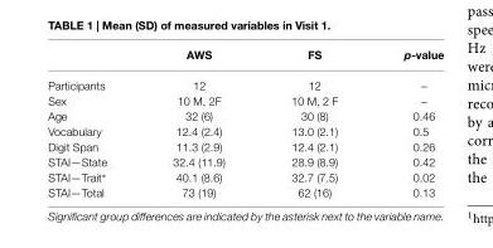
<table><thead><tr><td></td><td>AWS</td><td>FS</td><td>p-value</td></tr></thead><tbody><tr><td>Participants</td><td>12</td><td>12</td><td>–</td></tr><tr><td>Sex</td><td>10 M, 2F</td><td>10 M, 2 F</td><td>–</td></tr><tr><td>Age</td><td>32 (6)</td><td>30 (8)</td><td>0.46</td></tr><tr><td>Vocabulary</td><td>12.4 (2.4)</td><td>13.0 (2.1)</td><td>0.5</td></tr><tr><td>Digit Span</td><td>11.3 (2.9)</td><td>12.4 (2.1)</td><td>0.26</td></tr><tr><td>STAI—State</td><td>32.4 (11.9)</td><td>28.9 (8.9)</td><td>0.42</td></tr><tr><td>STAI—Trait∗</td><td>40.1 (8.6)</td><td>32.7 (7.5)</td><td>0.02</td></tr><tr><td>STAI—Total</td><td>73 (19)</td><td>62 (16)</td><td>0.13</td></tr></tbody></table>